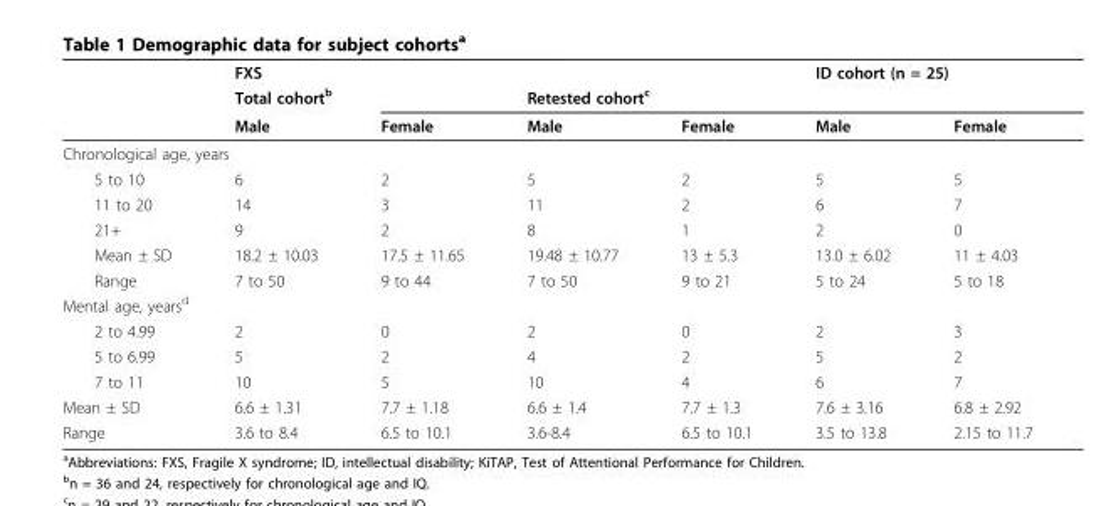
<table><thead><tr><td rowspan="3"></td><td colspan="4">FXS</td><td colspan="2">ID cohort (n = 25)</td></tr><tr><td colspan="2">Total cohort<sup>b</sup></td><td colspan="2">Retested cohort<sup>c</sup></td><td rowspan="2">Male</td><td rowspan="2">Female</td></tr><tr><td>Male</td><td>Female</td><td>Male</td><td>Female</td></tr></thead><tbody><tr><td colspan="7">Chronological age, years</td></tr><tr><td>5 to 10</td><td>6</td><td>2</td><td>5</td><td>2</td><td>5</td><td>5</td></tr><tr><td>11 to 20</td><td>14</td><td>3</td><td>11</td><td>2</td><td>6</td><td>7</td></tr><tr><td>21+</td><td>9</td><td>2</td><td>8</td><td>1</td><td>2</td><td>0</td></tr><tr><td>Mean ± SD</td><td>18.2 ± 10.03</td><td>17.5 ± 11.65</td><td>19.48 ± 10.77</td><td>13 ± 5.3</td><td>13.0 ± 6.02</td><td>11 ± 4.03</td></tr><tr><td>Range</td><td>7 to 50</td><td>9 to 44</td><td>7 to 50</td><td>9 to 21</td><td>5 to 24</td><td>5 to 18</td></tr><tr><td colspan="7">Mental age, years<sup>d</sup></td></tr><tr><td>2 to 4.99</td><td>2</td><td>0</td><td>2</td><td>0</td><td>2</td><td>3</td></tr><tr><td>5 to 6.99</td><td>5</td><td>2</td><td>4</td><td>2</td><td>5</td><td>2</td></tr><tr><td>7 to 11</td><td>10</td><td>5</td><td>10</td><td>4</td><td>6</td><td>7</td></tr><tr><td>Mean ± SD</td><td>6.6 ± 1.31</td><td>7.7 ± 1.18</td><td>6.6 ± 1.4</td><td>7.7 ± 1.3</td><td>7.6 ± 3.16</td><td>6.8 ± 2.92</td></tr><tr><td>Range</td><td>3.6 to 8.4</td><td>6.5 to 10.1</td><td>3.6-8.4</td><td>6.5 to 10.1</td><td>3.5 to 13.8</td><td>2.15 to 11.7</td></tr></tbody></table>